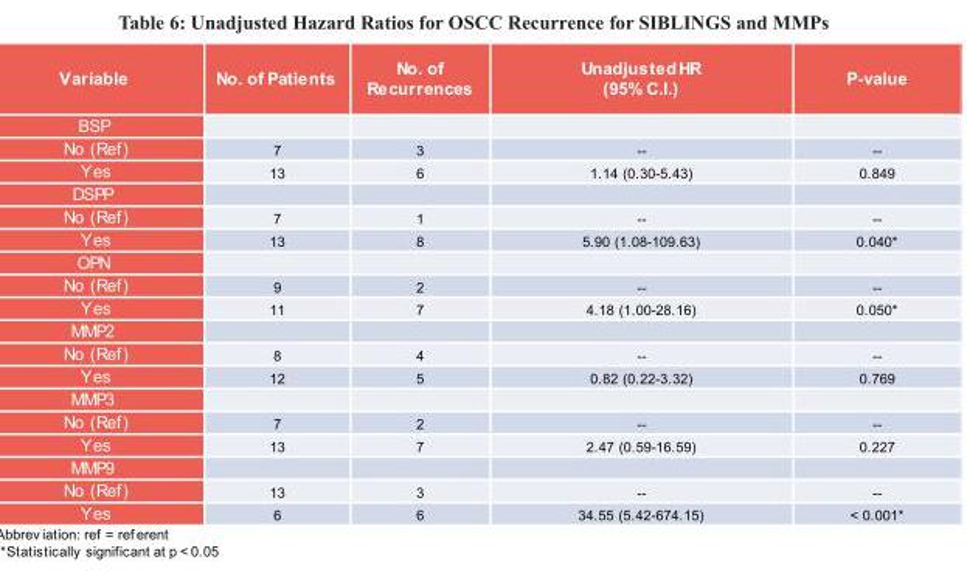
<table><thead><tr><td>Variable</td><td>No. of Patients</td><td>No. of Recurrences</td><td>Unadjusted HR (95% C.I.)</td><td>P-value</td></tr></thead><tbody><tr><td colspan="5">BSP</td></tr><tr><td>No (Ref)</td><td>7</td><td>3</td><td>--</td><td>--</td></tr><tr><td>Yes</td><td>13</td><td>6</td><td>1.14 (0.30-5.43)</td><td>0.849</td></tr><tr><td colspan="5">DSPP</td></tr><tr><td>No (Ref)</td><td>7</td><td>1</td><td>--</td><td>--</td></tr><tr><td>Yes</td><td>13</td><td>8</td><td>5.90 (1.08-109.63)</td><td>0.040*</td></tr><tr><td colspan="5">OPN</td></tr><tr><td>No (Ref)</td><td>9</td><td>2</td><td>--</td><td>--</td></tr><tr><td>Yes</td><td>11</td><td>7</td><td>4.18 (1.00-28.16)</td><td>0.050*</td></tr><tr><td colspan="5">MMP2</td></tr><tr><td>No (Ref)</td><td>8</td><td>4</td><td>--</td><td>--</td></tr><tr><td>Yes</td><td>12</td><td>5</td><td>0.82 (0.22-3.32)</td><td>0.769</td></tr><tr><td colspan="5">MMP3</td></tr><tr><td>No (Ref)</td><td>7</td><td>2</td><td>--</td><td>--</td></tr><tr><td>Yes</td><td>13</td><td>7</td><td>2.47 (0.59-16.59)</td><td>0.227</td></tr><tr><td colspan="5">MMP9</td></tr><tr><td>No (Ref)</td><td>13</td><td>3</td><td>--</td><td>--</td></tr><tr><td>Yes</td><td>6</td><td>6</td><td>34.55 (5.42-674.15)</td><td>&lt; 0.001*</td></tr></tbody></table>